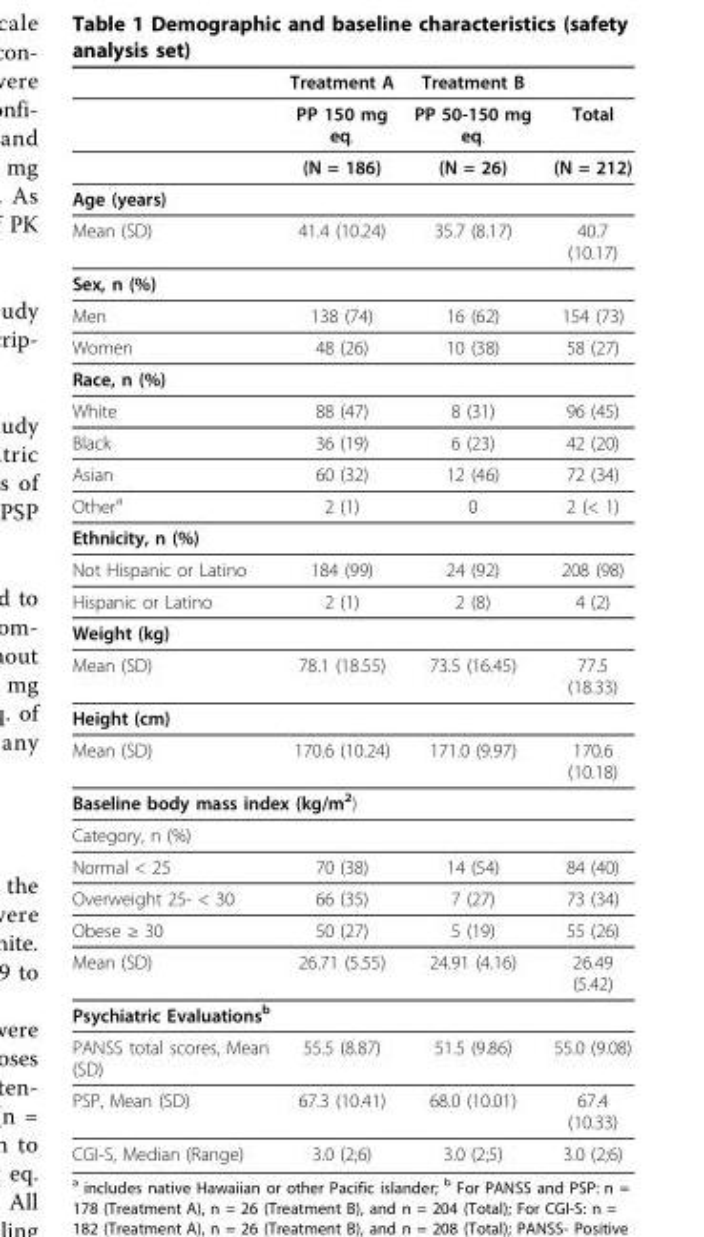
<table><thead><tr><td></td><td>Treatment A</td><td>Treatment B</td><td></td></tr></thead><tbody><tr><td></td><td>PP 150 mg eq.</td><td>PP 50-150 mg eq.</td><td>Total</td></tr><tr><td></td><td>(N = 186)</td><td>(N = 26)</td><td>(N = 212)</td></tr><tr><td colspan="4">Age (years)</td></tr><tr><td>Mean (SD)</td><td>41.4 (10.24)</td><td>35.7 (8.17)</td><td>40.7 (10.17)</td></tr><tr><td colspan="4">Sex, n (%)</td></tr><tr><td>Men</td><td>138 (74)</td><td>16 (62)</td><td>154 (73)</td></tr><tr><td>Women</td><td>48 (26)</td><td>10 (38)</td><td>58 (27)</td></tr><tr><td colspan="4">Race, n (%)</td></tr><tr><td>White</td><td>88 (47)</td><td>8 (31)</td><td>96 (45)</td></tr><tr><td>Black</td><td>36 (19)</td><td>6 (23)</td><td>42 (20)</td></tr><tr><td>Asian</td><td>60 (32)</td><td>12 (46)</td><td>72 (34)</td></tr><tr><td>Other<sup>a</sup></td><td>2 (1)</td><td>0</td><td>2 (&lt; 1)</td></tr><tr><td colspan="4">Ethnicity, n (%)</td></tr><tr><td>Not Hispanic or Latino</td><td>184 (99)</td><td>24 (92)</td><td>208 (98)</td></tr><tr><td>Hispanic or Latino</td><td>2 (1)</td><td>2 (8)</td><td>4 (2)</td></tr><tr><td colspan="4">Weight (kg)</td></tr><tr><td>Mean (SD)</td><td>78.1 (18.55)</td><td>73.5 (16.45)</td><td>77.5 (18.33)</td></tr><tr><td colspan="4">Height (cm)</td></tr><tr><td>Mean (SD)</td><td>170.6 (10.24)</td><td>171.0 (9.97)</td><td>170.6 (10.18)</td></tr><tr><td colspan="4">Baseline body mass index (kg/m<sup>2</sup>)</td></tr><tr><td colspan="4">Category, n (%)</td></tr><tr><td>Normal &lt; 25</td><td>70 (38)</td><td>14 (54)</td><td>84 (40)</td></tr><tr><td>Overweight 25- &lt; 30</td><td>66 (35)</td><td>7 (27)</td><td>73 (34)</td></tr><tr><td>Obese ≥ 30</td><td>50 (27)</td><td>5 (19)</td><td>55 (26)</td></tr><tr><td>Mean (SD)</td><td>26.71 (5.55)</td><td>24.91 (4.16)</td><td>26.49 (5.42)</td></tr><tr><td colspan="4">Psychiatric Evaluations<sup>b</sup></td></tr><tr><td>PANSS total scores, Mean (SD)</td><td>55.5 (8.87)</td><td>51.5 (9.86)</td><td>55.0 (9.08)</td></tr><tr><td>PSP, Mean (SD)</td><td>67.3 (10.41)</td><td>68.0 (10.01)</td><td>67.4 (10.33)</td></tr><tr><td>CGI-S, Median (Range)</td><td>3.0 (2;6)</td><td>3.0 (2;5)</td><td>3.0 (2;6)</td></tr></tbody></table>